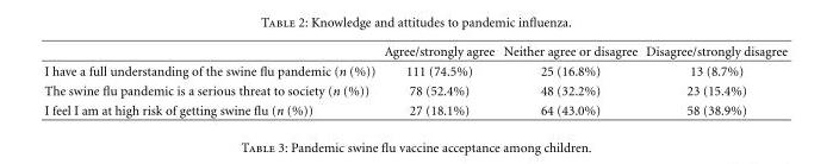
<table><thead><tr><td></td><td>Agree/strongly agree</td><td>Neither agree or disagree</td><td>Disagree/strongly disagree</td></tr></thead><tbody><tr><td>I have a full understanding of the swine flu pandemic (n (%))</td><td>111 (74.5%)</td><td>25 (16.8%)</td><td>13 (8.7%)</td></tr><tr><td>The swine flu pandemic is a serious threat to society (n (%))</td><td>78 (52.4%)</td><td>48 (32.2%)</td><td>23 (15.4%)</td></tr><tr><td>I feel I am at high risk of getting swine flu (n (%))</td><td>27 (18.1%)</td><td>64 (43.0%)</td><td>58 (38.9%)</td></tr></tbody></table>